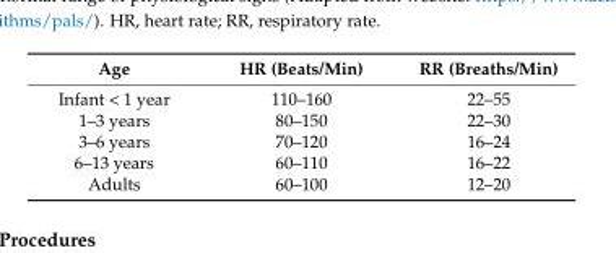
<table><thead><tr><td>Age</td><td>HR (Beats/Min)</td><td>RR (Breaths/Min)</td></tr></thead><tbody><tr><td>Infant &lt; 1 year</td><td>110–160</td><td>22–55</td></tr><tr><td>1–3 years</td><td>80–150</td><td>22–30</td></tr><tr><td>3–6 years</td><td>70–120</td><td>16–24</td></tr><tr><td>6–13 years</td><td>60–110</td><td>16–22</td></tr><tr><td>Adults</td><td>60–100</td><td>12–20</td></tr></tbody></table>